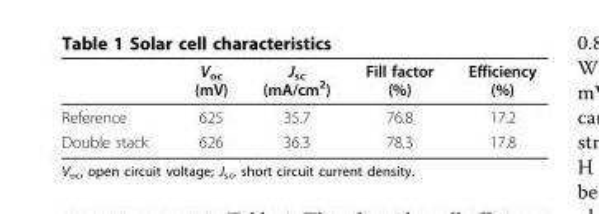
<table><thead><tr><td></td><td>V<sub>oc</sub> (mV)</td><td>J<sub>sc</sub> (mA/cm<sup>2</sup>)</td><td>Fill factor (%)</td><td>Efficiency (%)</td></tr></thead><tbody><tr><td>Reference</td><td>625</td><td>35.7</td><td>76.8</td><td>17.2</td></tr><tr><td>Double stack</td><td>626</td><td>36.3</td><td>78.3</td><td>17.8</td></tr></tbody></table>